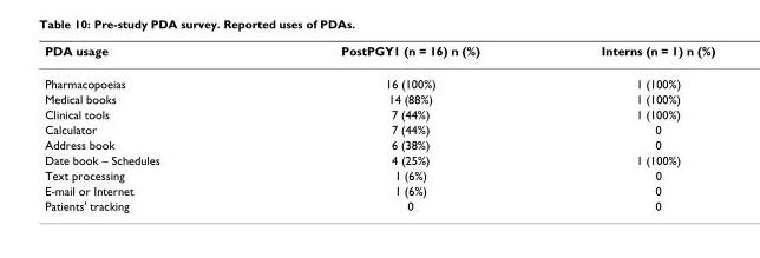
<table><thead><tr><td>PDA usage</td><td>PostPGY1 (n = 16) n (%)</td><td>Interns (n = 1) n (%)</td></tr></thead><tbody><tr><td>Pharmacopoeias</td><td>16 (100%)</td><td>1 (100%)</td></tr><tr><td>Medical books</td><td>14 (88%)</td><td>1 (100%)</td></tr><tr><td>Clinical tools</td><td>7 (44%)</td><td>1 (100%)</td></tr><tr><td>Calculator</td><td>7 (44%)</td><td>0</td></tr><tr><td>Address book</td><td>6 (38%)</td><td>0</td></tr><tr><td>Date book – Schedules</td><td>4 (25%)</td><td>1 (100%)</td></tr><tr><td>Text processing</td><td>1 (6%)</td><td>0</td></tr><tr><td>E-mail or Internet</td><td>1 (6%)</td><td>0</td></tr><tr><td>Patients&#x27; tracking</td><td>0</td><td>0</td></tr></tbody></table>